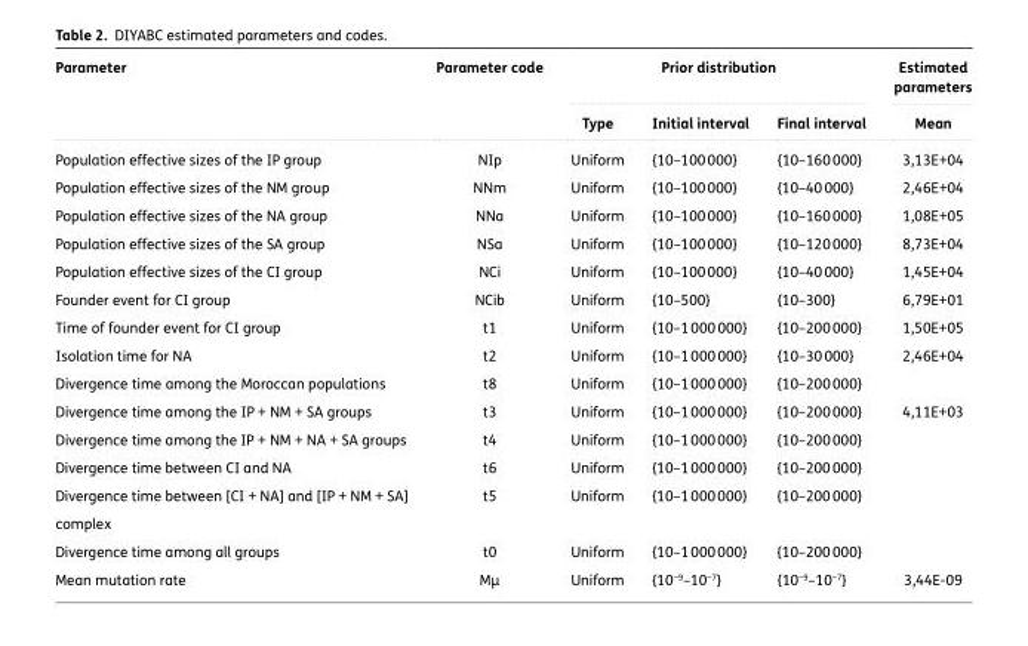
<table><thead><tr><td rowspan="2">Parameter</td><td rowspan="2">Parameter code</td><td colspan="3">Prior distribution</td><td rowspan="2">Estimated parameters Mean</td></tr><tr><td>Type</td><td>Initial interval</td><td>Final interval</td></tr></thead><tbody><tr><td>Population effective sizes of the IP group</td><td>NIp</td><td>Uniform</td><td>{10–100 000}</td><td>{10–160 000}</td><td>3,13E+04</td></tr><tr><td>Population effective sizes of the NM group</td><td>NNm</td><td>Uniform</td><td>{10–100 000}</td><td>{10–40 000}</td><td>2,46E+04</td></tr><tr><td>Population effective sizes of the NA group</td><td>NNa</td><td>Uniform</td><td>{10–100 000}</td><td>{10–160 000}</td><td>1,08E+05</td></tr><tr><td>Population effective sizes of the SA group</td><td>NSa</td><td>Uniform</td><td>{10–100 000}</td><td>{10–120 000}</td><td>8,73E+04</td></tr><tr><td>Population effective sizes of the CI group</td><td>NCi</td><td>Uniform</td><td>{10–100 000}</td><td>{10–40 000}</td><td>1,45E+04</td></tr><tr><td>Founder event for CI group</td><td>NCib</td><td>Uniform</td><td>{10–500}</td><td>{10–300}</td><td>6,79E+01</td></tr><tr><td>Time of founder event for CI group</td><td>t1</td><td>Uniform</td><td>{10–1 000 000}</td><td>{10–200 000}</td><td>1,50E+05</td></tr><tr><td>Isolation time for NA</td><td>t2</td><td>Uniform</td><td>{10–1 000 000}</td><td>{10–30 000}</td><td>2,46E+04</td></tr><tr><td>Divergence time among the Moroccan populations</td><td>t8</td><td>Uniform</td><td>{10–1 000 000}</td><td>{10–200 000}</td><td></td></tr><tr><td>Divergence time among the IP + NM + SA groups</td><td>t3</td><td>Uniform</td><td>{10–1 000 000}</td><td>{10–200 000}</td><td>4,11E+03</td></tr><tr><td>Divergence time among the IP + NM + NA + SA groups</td><td>t4</td><td>Uniform</td><td>{10–1 000 000}</td><td>{10–200 000}</td><td></td></tr><tr><td>Divergence time between CI and NA</td><td>t6</td><td>Uniform</td><td>{10–1 000 000}</td><td>{10–200 000}</td><td></td></tr><tr><td>Divergence time between [CI + NA] and [IP + NM + SA] complex</td><td>t5</td><td>Uniform</td><td>{10–1 000 000}</td><td>{10–200 000}</td><td></td></tr><tr><td>Divergence time among all groups</td><td>t0</td><td>Uniform</td><td>{10–1 000 000}</td><td>{10–200 000}</td><td></td></tr><tr><td>Mean mutation rate</td><td>Mµ</td><td>Uniform</td><td>{10<sup>−9</sup>–10<sup>−7</sup>}</td><td>{10<sup>−9</sup>–10<sup>−7</sup>}</td><td>3,44E-09</td></tr></tbody></table>